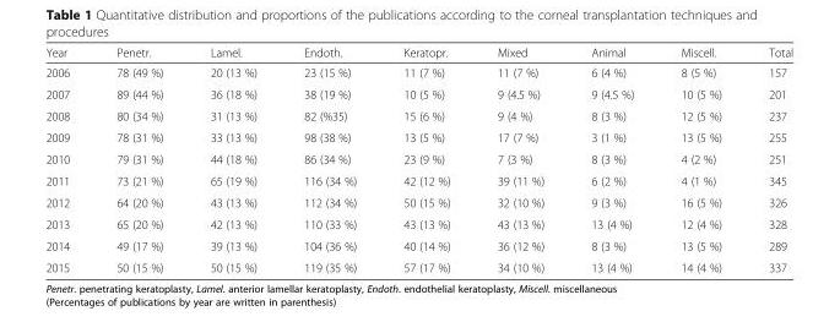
<table><thead><tr><td>Year</td><td>Penetr.</td><td>Lamel.</td><td>Endoth.</td><td>Keratopr.</td><td>Mixed</td><td>Animal</td><td>Miscell.</td><td>Total</td></tr></thead><tbody><tr><td>2006</td><td>78 (49 %)</td><td>20 (13 %)</td><td>23 (15 %)</td><td>11 (7 %)</td><td>11 (7 %)</td><td>6 (4 %)</td><td>8 (5 %)</td><td>157</td></tr><tr><td>2007</td><td>89 (44 %)</td><td>36 (18 %)</td><td>38 (19 %)</td><td>10 (5 %)</td><td>9 (4.5 %)</td><td>9 (4.5 %)</td><td>10 (5 %)</td><td>201</td></tr><tr><td>2008</td><td>80 (34 %)</td><td>31 (13 %)</td><td>82 (%35)</td><td>15 (6 %)</td><td>9 (4 %)</td><td>8 (3 %)</td><td>12 (5 %)</td><td>237</td></tr><tr><td>2009</td><td>78 (31 %)</td><td>33 (13 %)</td><td>98 (38 %)</td><td>13 (5 %)</td><td>17 (7 %)</td><td>3 (1 %)</td><td>13 (5 %)</td><td>255</td></tr><tr><td>2010</td><td>79 (31 %)</td><td>44 (18 %)</td><td>86 (34 %)</td><td>23 (9 %)</td><td>7 (3 %)</td><td>8 (3 %)</td><td>4 (2 %)</td><td>251</td></tr><tr><td>2011</td><td>73 (21 %)</td><td>65 (19 %)</td><td>116 (34 %)</td><td>42 (12 %)</td><td>39 (11 %)</td><td>6 (2 %)</td><td>4 (1 %)</td><td>345</td></tr><tr><td>2012</td><td>64 (20 %)</td><td>43 (13 %)</td><td>112 (34 %)</td><td>50 (15 %)</td><td>32 (10 %)</td><td>9 (3 %)</td><td>16 (5 %)</td><td>326</td></tr><tr><td>2013</td><td>65 (20 %)</td><td>42 (13 %)</td><td>110 (33 %)</td><td>43 (13 %)</td><td>43 (13 %)</td><td>13 (4 %)</td><td>12 (4 %)</td><td>328</td></tr><tr><td>2014</td><td>49 (17 %)</td><td>39 (13 %)</td><td>104 (36 %)</td><td>40 (14 %)</td><td>36 (12 %)</td><td>8 (3 %)</td><td>13 (5 %)</td><td>289</td></tr><tr><td>2015</td><td>50 (15 %)</td><td>50 (15 %)</td><td>119 (35 %)</td><td>57 (17 %)</td><td>34 (10 %)</td><td>13 (4 %)</td><td>14 (4 %)</td><td>337</td></tr></tbody></table>